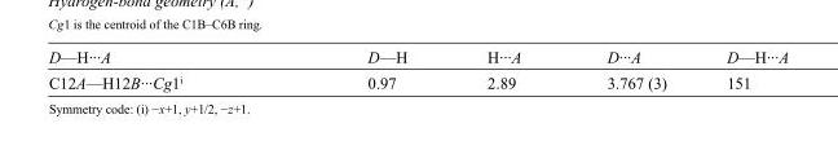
<table><tbody><tr><td>D—H···A</td><td>D—H</td><td>H···A</td><td>D···A</td><td>D—H···A</td></tr><tr><td>C12A—H12B···Cg1<sup>i</sup></td><td>0.97</td><td>2.89</td><td>3.767 (3)</td><td>151</td></tr></tbody></table>